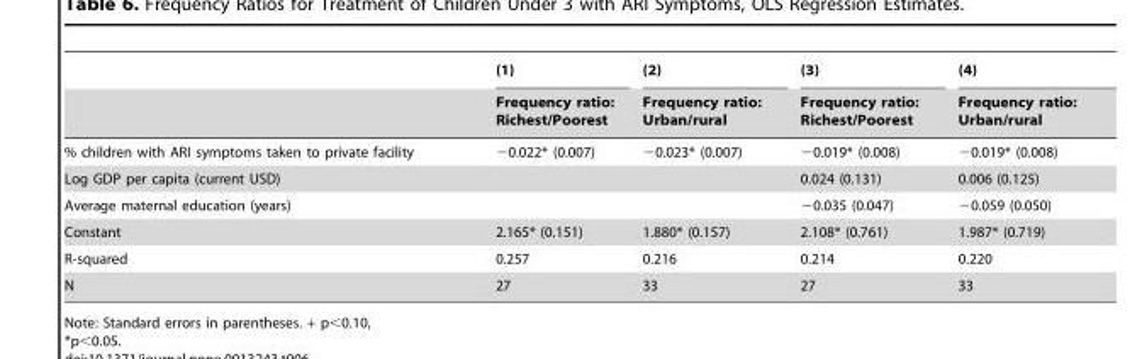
<table><thead><tr><td rowspan="2"></td><td rowspan="2">(1) Frequency ratio: Richest/Poorest</td><td rowspan="2">(2) Frequency ratio: Urban/rural</td><td rowspan="2">(3) Frequency ratio: Richest/Poorest</td><td rowspan="2">(4) Frequency ratio: Urban/rural</td></tr><tr></tr></thead><tbody><tr><td>% children with ARI symptoms taken to private facility</td><td>−0.022* (0.007)</td><td>−0.023* (0.007)</td><td>−0.019* (0.008)</td><td>−0.019* (0.008)</td></tr><tr><td>Log GDP per capita (current USD)</td><td></td><td></td><td>0.024 (0.131)</td><td>0.006 (0.125)</td></tr><tr><td>Average maternal education (years)</td><td></td><td></td><td>−0.035 (0.047)</td><td>−0.059 (0.050)</td></tr><tr><td>Constant</td><td>2.165* (0.151)</td><td>1.880* (0.157)</td><td>2.108* (0.761)</td><td>1.987* (0.719)</td></tr><tr><td>R-squared</td><td>0.257</td><td>0.216</td><td>0.214</td><td>0.220</td></tr><tr><td>N</td><td>27</td><td>33</td><td>27</td><td>33</td></tr></tbody></table>